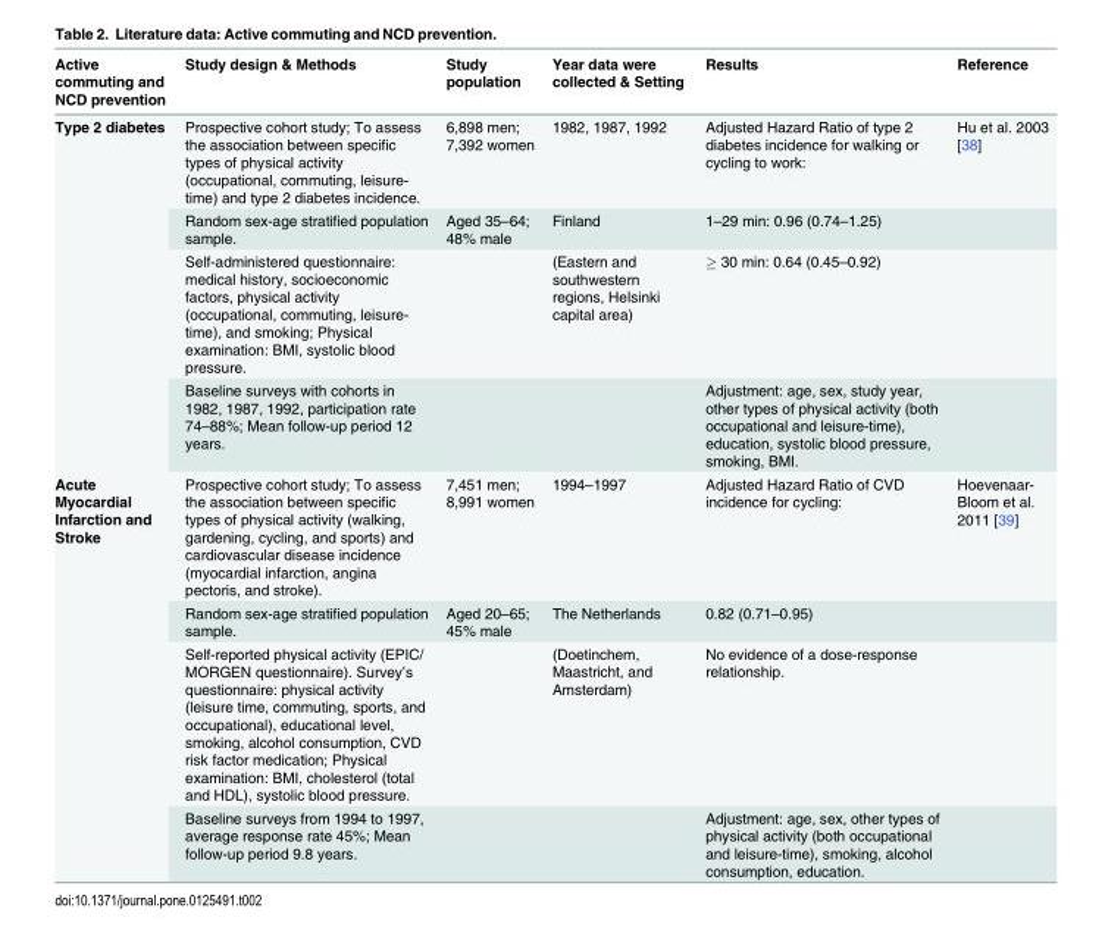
<table><thead><tr><td>Active commuting and NCD prevention</td><td>Study design &amp; Methods</td><td>Study population</td><td>Year data were collected &amp; Setting</td><td>Results</td><td>Reference</td></tr></thead><tbody><tr><td rowspan="4">Type 2 diabetes</td><td>Prospective cohort study; To assess the association between specific types of physical activity (occupational, commuting, leisure- time) and type 2 diabetes incidence.</td><td>6,898 men; 7,392 women</td><td>1982, 1987, 1992</td><td>Adjusted Hazard Ratio of type 2 diabetes incidence for walking or cycling to work:</td><td>Hu et al. 2003 [38]</td></tr><tr><td>Random sex-age stratified population sample.</td><td>Aged 35–64; 48% male</td><td>Finland</td><td>1–29 min: 0.96 (0.74–1.25)</td><td></td></tr><tr><td>Self-administered questionnaire: medical history, socioeconomic factors, physical activity (occupational, commuting, leisure- time), and smoking; Physical examination: BMI, systolic blood pressure.</td><td></td><td>(Eastern and southwestern regions, Helsinki capital area)</td><td>≥ 30 min: 0.64 (0.45–0.92)</td><td></td></tr><tr><td>Baseline surveys with cohorts in 1982, 1987, 1992, participation rate 74–88%; Mean follow-up period 12 years.</td><td></td><td></td><td>Adjustment: age, sex, study year, other types of physical activity (both occupational and leisure-time), education, systolic blood pressure, smoking, BMI.</td><td></td></tr><tr><td rowspan="4">Acute Myocardial Infarction and Stroke</td><td>Prospective cohort study; To assess the association between specific types of physical activity (walking, gardening, cycling, and sports) and cardiovascular disease incidence (myocardial infarction, angina pectoris, and stroke).</td><td>7,451 men; 8,991 women</td><td>1994–1997</td><td>Adjusted Hazard Ratio of CVD incidence for cycling:</td><td>Hoevenaar- Bloom et al. 2011 [39]</td></tr><tr><td>Random sex-age stratified population sample.</td><td>Aged 20–65; 45% male</td><td>The Netherlands</td><td>0.82 (0.71–0.95)</td><td></td></tr><tr><td>Self-reported physical activity (EPIC/ MORGEN questionnaire). Survey’s questionnaire: physical activity (leisure time, commuting, sports, and occupational), educational level, smoking, alcohol consumption, CVD risk factor medication; Physical examination: BMI, cholesterol (total and HDL), systolic blood pressure.</td><td></td><td>(Doetinchem, Maastricht, and Amsterdam)</td><td>No evidence of a dose-response relationship.</td><td></td></tr><tr><td>Baseline surveys from 1994 to 1997, average response rate 45%; Mean follow-up period 9.8 years.</td><td></td><td></td><td>Adjustment: age, sex, other types of physical activity (both occupational and leisure-time), smoking, alcohol consumption, education.</td><td></td></tr></tbody></table>